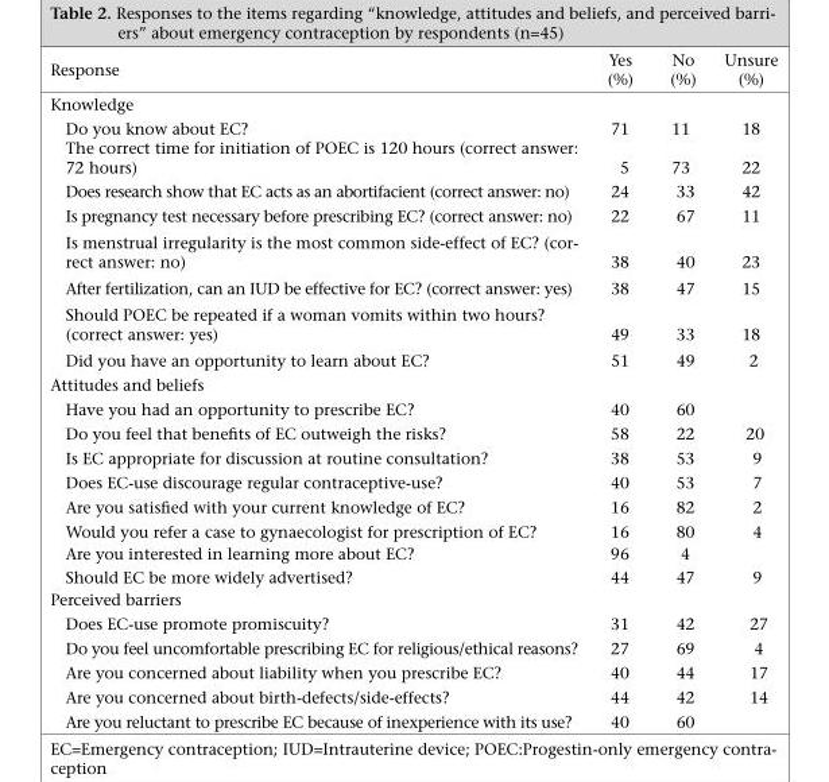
<table><thead><tr><td>Response</td><td>Yes (%)</td><td>No (%)</td><td>Unsure (%)</td></tr></thead><tbody><tr><td colspan="4">Knowledge</td></tr><tr><td>Do you know about EC?</td><td>71</td><td>11</td><td>18</td></tr><tr><td>The correct time for initiation of POEC is 120 hours (correct answer: 72 hours)</td><td>5</td><td>73</td><td>22</td></tr><tr><td>Does research show that EC acts as an abortifacient (correct answer: no)</td><td>24</td><td>33</td><td>42</td></tr><tr><td>Is pregnancy test necessary before prescribing EC? (correct answer: no)</td><td>22</td><td>67</td><td>11</td></tr><tr><td>Is menstrual irregularity is the most common side-effect of EC? (cor- rect answer: no)</td><td>38</td><td>40</td><td>23</td></tr><tr><td>After fertilization, can an IUD be effective for EC? (correct answer: yes)</td><td>38</td><td>47</td><td>15</td></tr><tr><td>Should POEC be repeated if a woman vomits within two hours? (correct answer: yes)</td><td>49</td><td>33</td><td>18</td></tr><tr><td>Did you have an opportunity to learn about EC?</td><td>51</td><td>49</td><td>2</td></tr><tr><td colspan="4">Attitudes and beliefs</td></tr><tr><td>Have you had an opportunity to prescribe EC?</td><td>40</td><td>60</td><td></td></tr><tr><td>Do you feel that benefits of EC outweigh the risks?</td><td>58</td><td>22</td><td>20</td></tr><tr><td>Is EC appropriate for discussion at routine consultation?</td><td>38</td><td>53</td><td>9</td></tr><tr><td>Does EC-use discourage regular contraceptive-use?</td><td>40</td><td>53</td><td>7</td></tr><tr><td>Are you satisfied with your current knowledge of EC?</td><td>16</td><td>82</td><td>2</td></tr><tr><td>Would you refer a case to gynaecologist for prescription of EC?</td><td>16</td><td>80</td><td>4</td></tr><tr><td>Are you interested in learning more about EC?</td><td>96</td><td>4</td><td></td></tr><tr><td>Should EC be more widely advertised?</td><td>44</td><td>47</td><td>9</td></tr><tr><td colspan="4">Perceived barriers</td></tr><tr><td>Does EC-use promote promiscuity?</td><td>31</td><td>42</td><td>27</td></tr><tr><td>Do you feel uncomfortable prescribing EC for religious/ethical reasons?</td><td>27</td><td>69</td><td>4</td></tr><tr><td>Are you concerned about liability when you prescribe EC?</td><td>40</td><td>44</td><td>17</td></tr><tr><td>Are you concerned about birth-defects/side-effects?</td><td>44</td><td>42</td><td>14</td></tr><tr><td>Are you reluctant to prescribe EC because of inexperience with its use?</td><td>40</td><td>60</td><td></td></tr></tbody></table>